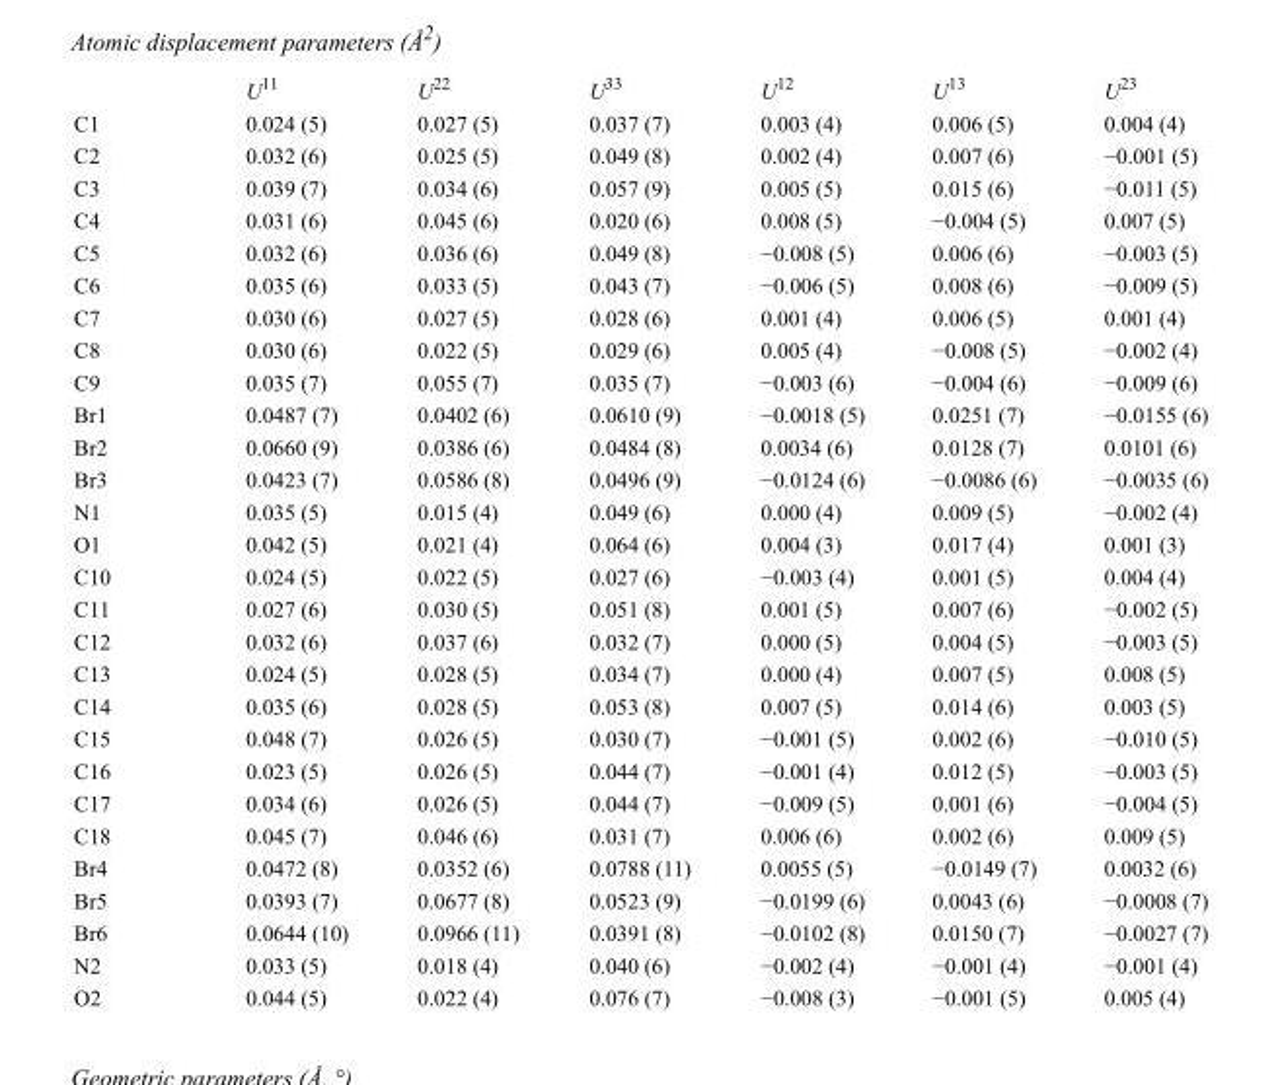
<table><thead><tr><td></td><td>U<sup>11</sup></td><td>U<sup>22</sup></td><td>U<sup>33</sup></td><td>U<sup>12</sup></td><td>U<sup>13</sup></td><td>U<sup>23</sup></td></tr></thead><tbody><tr><td>C1</td><td>0.024 (5)</td><td>0.027 (5)</td><td>0.037 (7)</td><td>0.003 (4)</td><td>0.006 (5)</td><td>0.004 (4)</td></tr><tr><td>C2</td><td>0.032 (6)</td><td>0.025 (5)</td><td>0.049 (8)</td><td>0.002 (4)</td><td>0.007 (6)</td><td>−0.001 (5)</td></tr><tr><td>C3</td><td>0.039 (7)</td><td>0.034 (6)</td><td>0.057 (9)</td><td>0.005 (5)</td><td>0.015 (6)</td><td>−0.011 (5)</td></tr><tr><td>C4</td><td>0.031 (6)</td><td>0.045 (6)</td><td>0.020 (6)</td><td>0.008 (5)</td><td>−0.004 (5)</td><td>0.007 (5)</td></tr><tr><td>C5</td><td>0.032 (6)</td><td>0.036 (6)</td><td>0.049 (8)</td><td>−0.008 (5)</td><td>0.006 (6)</td><td>−0.003 (5)</td></tr><tr><td>C6</td><td>0.035 (6)</td><td>0.033 (5)</td><td>0.043 (7)</td><td>−0.006 (5)</td><td>0.008 (6)</td><td>−0.009 (5)</td></tr><tr><td>C7</td><td>0.030 (6)</td><td>0.027 (5)</td><td>0.028 (6)</td><td>0.001 (4)</td><td>0.006 (5)</td><td>0.001 (4)</td></tr><tr><td>C8</td><td>0.030 (6)</td><td>0.022 (5)</td><td>0.029 (6)</td><td>0.005 (4)</td><td>−0.008 (5)</td><td>−0.002 (4)</td></tr><tr><td>C9</td><td>0.035 (7)</td><td>0.055 (7)</td><td>0.035 (7)</td><td>−0.003 (6)</td><td>−0.004 (6)</td><td>−0.009 (6)</td></tr><tr><td>Br1</td><td>0.0487 (7)</td><td>0.0402 (6)</td><td>0.0610 (9)</td><td>−0.0018 (5)</td><td>0.0251 (7)</td><td>−0.0155 (6)</td></tr><tr><td>Br2</td><td>0.0660 (9)</td><td>0.0386 (6)</td><td>0.0484 (8)</td><td>0.0034 (6)</td><td>0.0128 (7)</td><td>0.0101 (6)</td></tr><tr><td>Br3</td><td>0.0423 (7)</td><td>0.0586 (8)</td><td>0.0496 (9)</td><td>−0.0124 (6)</td><td>−0.0086 (6)</td><td>−0.0035 (6)</td></tr><tr><td>N1</td><td>0.035 (5)</td><td>0.015 (4)</td><td>0.049 (6)</td><td>0.000 (4)</td><td>0.009 (5)</td><td>−0.002 (4)</td></tr><tr><td>O1</td><td>0.042 (5)</td><td>0.021 (4)</td><td>0.064 (6)</td><td>0.004 (3)</td><td>0.017 (4)</td><td>0.001 (3)</td></tr><tr><td>C10</td><td>0.024 (5)</td><td>0.022 (5)</td><td>0.027 (6)</td><td>−0.003 (4)</td><td>0.001 (5)</td><td>0.004 (4)</td></tr><tr><td>C11</td><td>0.027 (6)</td><td>0.030 (5)</td><td>0.051 (8)</td><td>0.001 (5)</td><td>0.007 (6)</td><td>−0.002 (5)</td></tr><tr><td>C12</td><td>0.032 (6)</td><td>0.037 (6)</td><td>0.032 (7)</td><td>0.000 (5)</td><td>0.004 (5)</td><td>−0.003 (5)</td></tr><tr><td>C13</td><td>0.024 (5)</td><td>0.028 (5)</td><td>0.034 (7)</td><td>0.000 (4)</td><td>0.007 (5)</td><td>0.008 (5)</td></tr><tr><td>C14</td><td>0.035 (6)</td><td>0.028 (5)</td><td>0.053 (8)</td><td>0.007 (5)</td><td>0.014 (6)</td><td>0.003 (5)</td></tr><tr><td>C15</td><td>0.048 (7)</td><td>0.026 (5)</td><td>0.030 (7)</td><td>−0.001 (5)</td><td>0.002 (6)</td><td>−0.010 (5)</td></tr><tr><td>C16</td><td>0.023 (5)</td><td>0.026 (5)</td><td>0.044 (7)</td><td>−0.001 (4)</td><td>0.012 (5)</td><td>−0.003 (5)</td></tr><tr><td>C17</td><td>0.034 (6)</td><td>0.026 (5)</td><td>0.044 (7)</td><td>−0.009 (5)</td><td>0.001 (6)</td><td>−0.004 (5)</td></tr><tr><td>C18</td><td>0.045 (7)</td><td>0.046 (6)</td><td>0.031 (7)</td><td>0.006 (6)</td><td>0.002 (6)</td><td>0.009 (5)</td></tr><tr><td>Br4</td><td>0.0472 (8)</td><td>0.0352 (6)</td><td>0.0788 (11)</td><td>0.0055 (5)</td><td>−0.0149 (7)</td><td>0.0032 (6)</td></tr><tr><td>Br5</td><td>0.0393 (7)</td><td>0.0677 (8)</td><td>0.0523 (9)</td><td>−0.0199 (6)</td><td>0.0043 (6)</td><td>−0.0008 (7)</td></tr><tr><td>Br6</td><td>0.0644 (10)</td><td>0.0966 (11)</td><td>0.0391 (8)</td><td>−0.0102 (8)</td><td>0.0150 (7)</td><td>−0.0027 (7)</td></tr><tr><td>N2</td><td>0.033 (5)</td><td>0.018 (4)</td><td>0.040 (6)</td><td>−0.002 (4)</td><td>−0.001 (4)</td><td>−0.001 (4)</td></tr><tr><td>O2</td><td>0.044 (5)</td><td>0.022 (4)</td><td>0.076 (7)</td><td>−0.008 (3)</td><td>−0.001 (5)</td><td>0.005 (4)</td></tr></tbody></table>